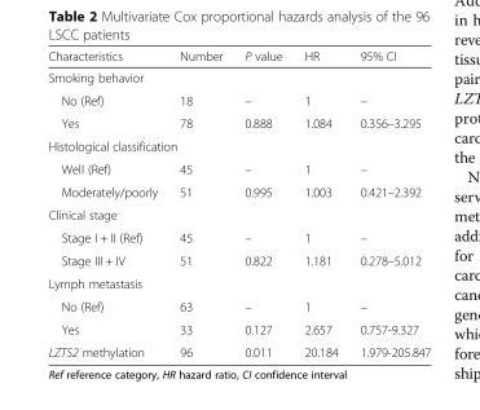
<table><thead><tr><td>Characteristics</td><td>Number</td><td>P value</td><td>HR</td><td>95% CI</td></tr></thead><tbody><tr><td colspan="5">Smoking behavior</td></tr><tr><td>No (Ref)</td><td>18</td><td>–</td><td>1</td><td>–</td></tr><tr><td>Yes</td><td>78</td><td>0.888</td><td>1.084</td><td>0.356–3.295</td></tr><tr><td colspan="5">Histological classification</td></tr><tr><td>Well (Ref)</td><td>45</td><td>–</td><td>1</td><td>–</td></tr><tr><td>Moderately/poorly</td><td>51</td><td>0.995</td><td>1.003</td><td>0.421–2.392</td></tr><tr><td colspan="5">Clinical stage</td></tr><tr><td>Stage I + II (Ref)</td><td>45</td><td>–</td><td>1</td><td>–</td></tr><tr><td>Stage III + IV</td><td>51</td><td>0.822</td><td>1.181</td><td>0.278–5.012</td></tr><tr><td colspan="5">Lymph metastasis</td></tr><tr><td>No (Ref)</td><td>63</td><td>–</td><td>1</td><td>–</td></tr><tr><td>Yes</td><td>33</td><td>0.127</td><td>2.657</td><td>0.757-9.327</td></tr><tr><td>LZTS2 methylation</td><td>96</td><td>0.011</td><td>20.184</td><td>1.979-205.847</td></tr></tbody></table>